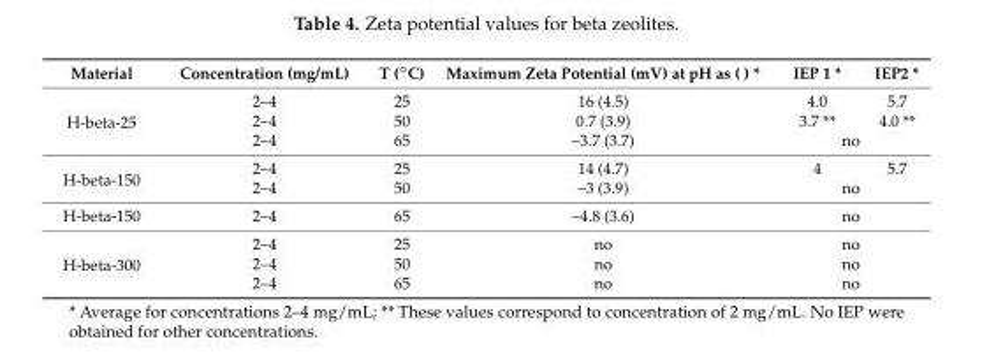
<table><thead><tr><td>Material</td><td>Concentration (mg/mL)</td><td>T (◦C)</td><td>Maximum Zeta Potential (mV) at pH as ( ) *</td><td>IEP 1 *</td><td>IEP2 *</td></tr></thead><tbody><tr><td rowspan="3">H-beta-25</td><td>2–4</td><td>25</td><td>16 (4.5)</td><td>4.0</td><td>5.7</td></tr><tr><td>2–4</td><td>50</td><td>0.7 (3.9)</td><td>3.7 **</td><td>4.0 **</td></tr><tr><td>2–4</td><td>65</td><td>–3.7 (3.7)</td><td colspan="2">no</td></tr><tr><td rowspan="2">H-beta-150</td><td>2–4</td><td>25</td><td>14 (4.7)</td><td>4</td><td>5.7</td></tr><tr><td>2–4</td><td>50</td><td>–3 (3.9)</td><td colspan="2">no</td></tr><tr><td>H-beta-150</td><td>2–4</td><td>65</td><td>–4.8 (3.6)</td><td colspan="2">no</td></tr><tr><td rowspan="3">H-beta-300</td><td>2–4</td><td>25</td><td>no</td><td colspan="2">no</td></tr><tr><td>2–4</td><td>50</td><td>no</td><td colspan="2">no</td></tr><tr><td>2–4</td><td>65</td><td>no</td><td colspan="2">no</td></tr></tbody></table>